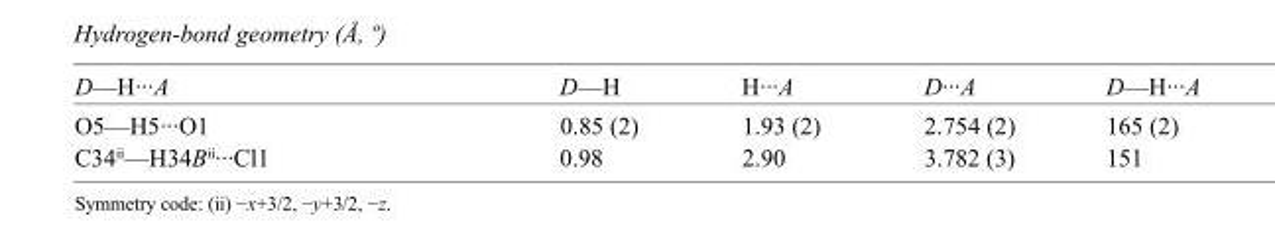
<table><tbody><tr><td>D—H···A</td><td>D—H</td><td>H···A</td><td>D···A</td><td>D—H···A</td></tr><tr><td>O5—H5···O1</td><td>0.85 (2)</td><td>1.93 (2)</td><td>2.754 (2)</td><td>165 (2)</td></tr><tr><td>C34<sup>ii</sup>—H34B<sup>ii</sup>···Cl1</td><td>0.98</td><td>2.90</td><td>3.782 (3)</td><td>151</td></tr></tbody></table>